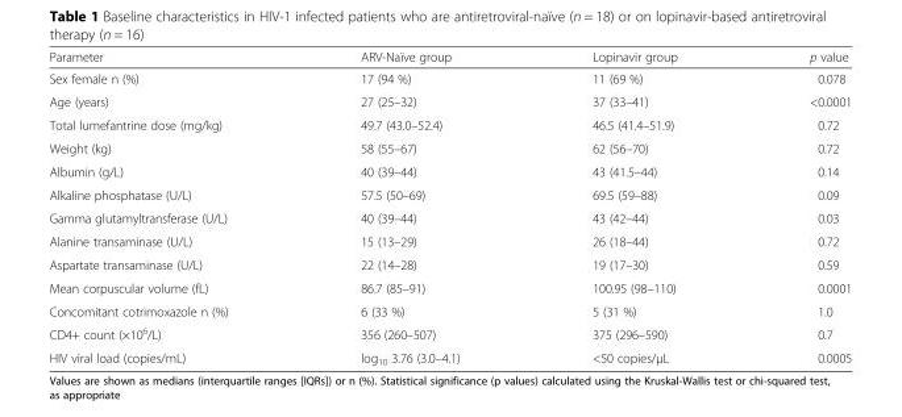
<table><thead><tr><td>Parameter</td><td>ARV-Naïve group</td><td>Lopinavir group</td><td>p value</td></tr></thead><tbody><tr><td>Sex female n (%)</td><td>17 (94 %)</td><td>11 (69 %)</td><td>0.078</td></tr><tr><td>Age (years)</td><td>27 (25–32)</td><td>37 (33–41)</td><td>&lt;0.0001</td></tr><tr><td>Total lumefantrine dose (mg/kg)</td><td>49.7 (43.0–52.4)</td><td>46.5 (41.4–51.9)</td><td>0.72</td></tr><tr><td>Weight (kg)</td><td>58 (55–67)</td><td>62 (56–70)</td><td>0.72</td></tr><tr><td>Albumin (g/L)</td><td>40 (39–44)</td><td>43 (41.5–44)</td><td>0.14</td></tr><tr><td>Alkaline phosphatase (U/L)</td><td>57.5 (50–69)</td><td>69.5 (59–88)</td><td>0.09</td></tr><tr><td>Gamma glutamyltransferase (U/L)</td><td>40 (39–44)</td><td>43 (42–44)</td><td>0.03</td></tr><tr><td>Alanine transaminase (U/L)</td><td>15 (13–29)</td><td>26 (18–44)</td><td>0.72</td></tr><tr><td>Aspartate transaminase (U/L)</td><td>22 (14–28)</td><td>19 (17–30)</td><td>0.59</td></tr><tr><td>Mean corpuscular volume (fL)</td><td>86.7 (85–91)</td><td>100.95 (98–110)</td><td>0.0001</td></tr><tr><td>Concomitant cotrimoxazole n (%)</td><td>6 (33 %)</td><td>5 (31 %)</td><td>1.0</td></tr><tr><td>CD4+ count (×10<sup>6</sup>/L)</td><td>356 (260–507)</td><td>375 (296–590)</td><td>0.7</td></tr><tr><td>HIV viral load (copies/mL)</td><td>log<sub>10</sub> 3.76 (3.0–4.1)</td><td>&lt;50 copies/μL</td><td>0.0005</td></tr></tbody></table>